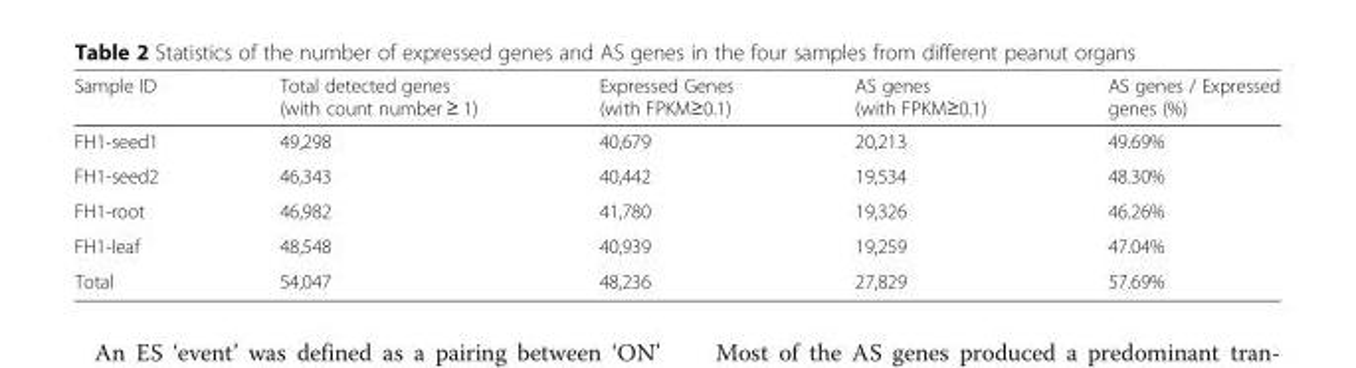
<table><thead><tr><td>Sample ID</td><td>Total detected genes (with count number ≥ 1)</td><td>Expressed Genes (with FPKM≥0.1)</td><td>AS genes (with FPKM≥0.1)</td><td>AS genes / Expressed genes (%)</td></tr></thead><tbody><tr><td>FH1-seed1</td><td>49,298</td><td>40,679</td><td>20,213</td><td>49.69%</td></tr><tr><td>FH1-seed2</td><td>46,343</td><td>40,442</td><td>19,534</td><td>48.30%</td></tr><tr><td>FH1-root</td><td>46,982</td><td>41,780</td><td>19,326</td><td>46.26%</td></tr><tr><td>FH1-leaf</td><td>48,548</td><td>40,939</td><td>19,259</td><td>47.04%</td></tr><tr><td>Total</td><td>54,047</td><td>48,236</td><td>27,829</td><td>57.69%</td></tr></tbody></table>